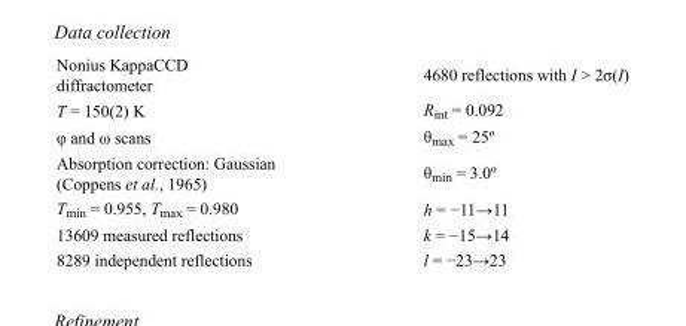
<table><tbody><tr><td>Nonius KappaCCD diffractometer</td><td>4680 reflections with I &gt; 2σ(I)</td></tr><tr><td>T = 150(2) K</td><td>R<sub>int</sub> = 0.092</td></tr><tr><td>φ and ω scans</td><td>θ<sub>max</sub> = 25º</td></tr><tr><td>Absorption correction: Gaussian (Coppens et al., 1965)</td><td>θ<sub>min</sub> = 3.0º</td></tr><tr><td>T<sub>min</sub> = 0.955, T<sub>max</sub> = 0.980</td><td>h = −11→11</td></tr><tr><td>13609 measured reflections</td><td>k = −15→14</td></tr><tr><td>8289 independent reflections</td><td>l = −23→23</td></tr></tbody></table>